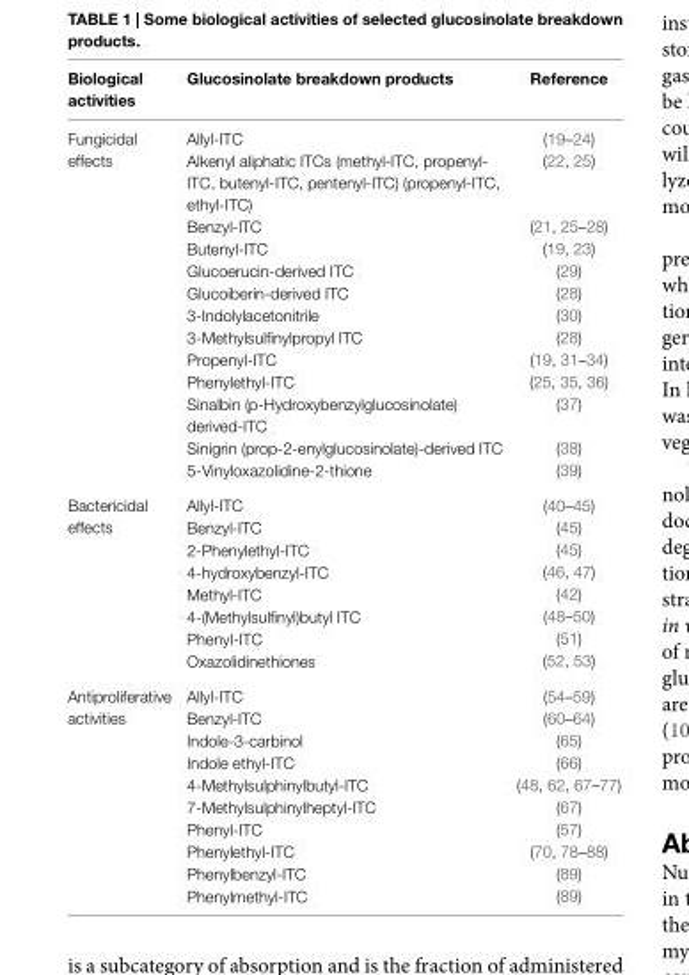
<table><thead><tr><td>Biological activities</td><td>Glucosinolate breakdown products</td><td>Reference</td></tr></thead><tbody><tr><td rowspan="13">Fungicidal effects</td><td>Allyl-ITC</td><td>(19–24)</td></tr><tr><td>Alkenyl aliphatic ITCs (methyl-ITC, propenyl- ITC, butenyl-ITC, pentenyl-ITC) (propenyl-ITC, ethyl-ITC)</td><td>(22, 25)</td></tr><tr><td>Benzyl-ITC</td><td>(21, 25–28)</td></tr><tr><td>Butenyl-ITC</td><td>(19, 23)</td></tr><tr><td>Glucoerucin-derived ITC</td><td>(29)</td></tr><tr><td>Glucoiberin-derived ITC</td><td>(28)</td></tr><tr><td>3-Indolylacetonitrile</td><td>(30)</td></tr><tr><td>3-Methylsulfinylpropyl ITC</td><td>(28)</td></tr><tr><td>Propenyl-ITC</td><td>(19, 31–34)</td></tr><tr><td>Phenylethyl-ITC</td><td>(25, 35, 36)</td></tr><tr><td>Sinalbin (p-Hydroxybenzylglucosinolate) derived-ITC</td><td>(37)</td></tr><tr><td>Sinigrin (prop-2-enylglucosinolate)-derived ITC</td><td>(38)</td></tr><tr><td>5-Vinyloxazolidine-2-thione</td><td>(39)</td></tr><tr><td rowspan="8">Bactericidal effects</td><td>Allyl-ITC</td><td>(40–45)</td></tr><tr><td>Benzyl-ITC</td><td>(45)</td></tr><tr><td>2-Phenylethyl-ITC</td><td>(45)</td></tr><tr><td>4-hydroxybenzyl-ITC</td><td>(46, 47)</td></tr><tr><td>Methyl-ITC</td><td>(42)</td></tr><tr><td>4-(Methylsulfinyl)butyl ITC</td><td>(48–50)</td></tr><tr><td>Phenyl-ITC</td><td>(51)</td></tr><tr><td>Oxazolidinethiones</td><td>(52, 53)</td></tr><tr><td rowspan="10">Antiproliferative activities</td><td>Allyl-ITC</td><td>(54–59)</td></tr><tr><td>Benzyl-ITC</td><td>(60–64)</td></tr><tr><td>Indole-3-carbinol</td><td>(65)</td></tr><tr><td>Indole ethyl-ITC</td><td>(66)</td></tr><tr><td>4-Methylsulphinylbutyl-ITC</td><td>(48, 62, 67–77)</td></tr><tr><td>7-Methylsulphinylheptyl-ITC</td><td>(67)</td></tr><tr><td>Phenyl-ITC</td><td>(57)</td></tr><tr><td>Phenylethyl-ITC</td><td>(70, 78–88)</td></tr><tr><td>Phenylbenzyl-ITC</td><td>(89)</td></tr><tr><td>Phenylmethyl-ITC</td><td>(89)</td></tr></tbody></table>